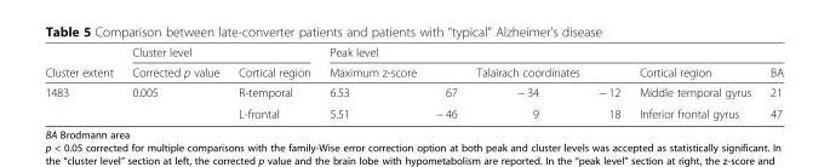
<table><thead><tr><td rowspan="2">Cluster extent</td><td colspan="2">Cluster level</td><td colspan="6">Peak level</td></tr><tr><td>Corrected p value</td><td>Cortical region</td><td>Maximum z-score</td><td></td><td>Talairach coordinates</td><td></td><td>Cortical region</td><td>BA</td></tr></thead><tbody><tr><td rowspan="2">1483</td><td>0.005</td><td>R-temporal</td><td>6.53</td><td>67</td><td>− 34</td><td>− 12</td><td>Middle temporal gyrus</td><td>21</td></tr><tr><td></td><td>L-frontal</td><td>5.51</td><td>− 46</td><td>9</td><td>18</td><td>Inferior frontal gyrus</td><td>47</td></tr></tbody></table>